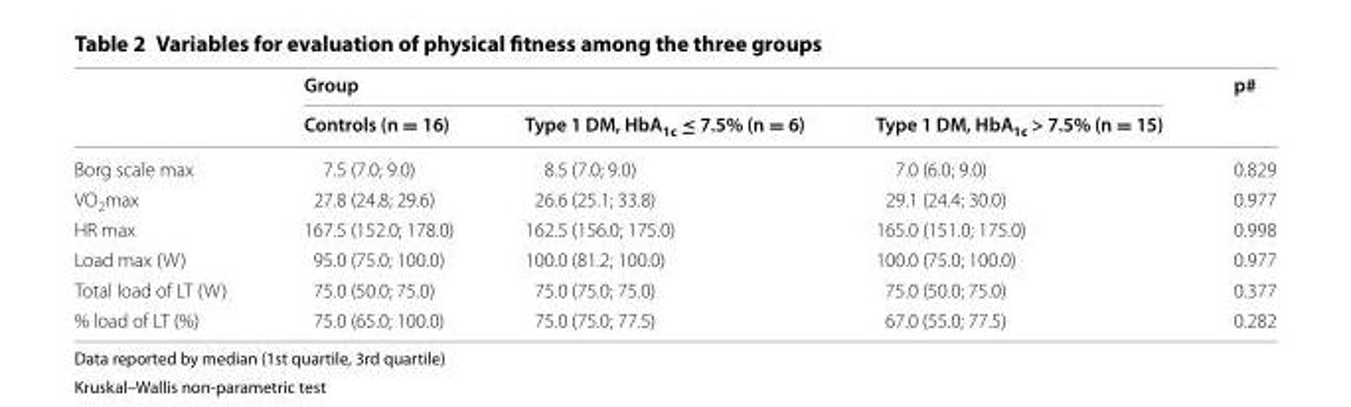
<table><thead><tr><td rowspan="2"></td><td colspan="3">Group</td><td rowspan="2">p#</td></tr><tr><td>Controls (n = 16)</td><td>Type 1 DM, HbA<sub>1c</sub> ≤ 7.5% (n = 6)</td><td>Type 1 DM, HbA<sub>1c</sub> &gt; 7.5% (n = 15)</td></tr></thead><tbody><tr><td>Borg scale max</td><td>7.5 (7.0; 9.0)</td><td>8.5 (7.0; 9.0)</td><td>7.0 (6.0; 9.0)</td><td>0.829</td></tr><tr><td>VO<sub>2</sub>max</td><td>27.8 (24.8; 29.6)</td><td>26.6 (25.1; 33.8)</td><td>29.1 (24.4; 30.0)</td><td>0.977</td></tr><tr><td>HR max</td><td>167.5 (152.0; 178.0)</td><td>162.5 (156.0; 175.0)</td><td>165.0 (151.0; 175.0)</td><td>0.998</td></tr><tr><td>Load max (W)</td><td>95.0 (75.0; 100.0)</td><td>100.0 (81.2; 100.0)</td><td>100.0 (75.0; 100.0)</td><td>0.977</td></tr><tr><td>Total load of LT (W)</td><td>75.0 (50.0; 75.0)</td><td>75.0 (75.0; 75.0)</td><td>75.0 (50.0; 75.0)</td><td>0.377</td></tr><tr><td>% load of LT (%)</td><td>75.0 (65.0; 100.0)</td><td>75.0 (75.0; 77.5)</td><td>67.0 (55.0; 77.5)</td><td>0.282</td></tr></tbody></table>